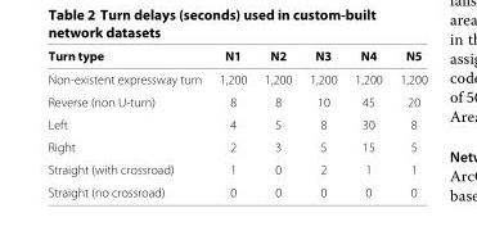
<table><thead><tr><td>Turn type</td><td>N1</td><td>N2</td><td>N3</td><td>N4</td><td>N5</td></tr></thead><tbody><tr><td>Non-existent expressway turn</td><td>1,200</td><td>1,200</td><td>1,200</td><td>1,200</td><td>1,200</td></tr><tr><td>Reverse (non U-turn)</td><td>8</td><td>8</td><td>10</td><td>45</td><td>20</td></tr><tr><td>Left</td><td>4</td><td>5</td><td>8</td><td>30</td><td>8</td></tr><tr><td>Right</td><td>2</td><td>3</td><td>5</td><td>15</td><td>5</td></tr><tr><td>Straight (with crossroad)</td><td>1</td><td>0</td><td>2</td><td>1</td><td>1</td></tr><tr><td>Straight (no crossroad)</td><td>0</td><td>0</td><td>0</td><td>0</td><td>0</td></tr></tbody></table>